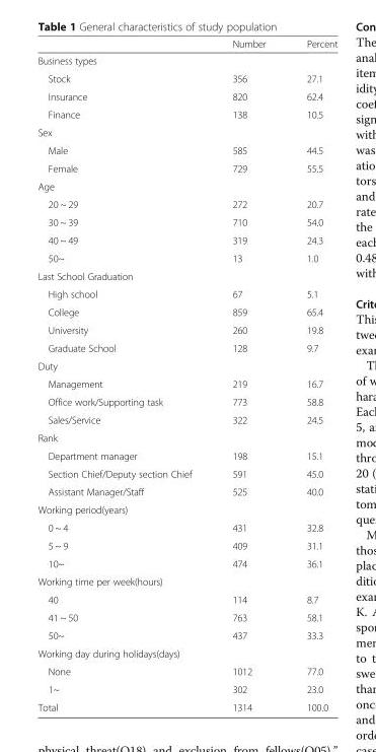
<table><thead><tr><td></td><td>Number</td><td>Percent</td></tr></thead><tbody><tr><td colspan="3">Business types</td></tr><tr><td>Stock</td><td>356</td><td>27.1</td></tr><tr><td>Insurance</td><td>820</td><td>62.4</td></tr><tr><td>Finance</td><td>138</td><td>10.5</td></tr><tr><td colspan="3">Sex</td></tr><tr><td>Male</td><td>585</td><td>44.5</td></tr><tr><td>Female</td><td>729</td><td>55.5</td></tr><tr><td colspan="3">Age</td></tr><tr><td>20 ~ 29</td><td>272</td><td>20.7</td></tr><tr><td>30 ~ 39</td><td>710</td><td>54.0</td></tr><tr><td>40 ~ 49</td><td>319</td><td>24.3</td></tr><tr><td>50~</td><td>13</td><td>1.0</td></tr><tr><td colspan="3">Last School Graduation</td></tr><tr><td>High school</td><td>67</td><td>5.1</td></tr><tr><td>College</td><td>859</td><td>65.4</td></tr><tr><td>University</td><td>260</td><td>19.8</td></tr><tr><td>Graduate School</td><td>128</td><td>9.7</td></tr><tr><td colspan="3">Duty</td></tr><tr><td>Management</td><td>219</td><td>16.7</td></tr><tr><td>Office work/Supporting task</td><td>773</td><td>58.8</td></tr><tr><td>Sales/Service</td><td>322</td><td>24.5</td></tr><tr><td colspan="3">Rank</td></tr><tr><td>Department manager</td><td>198</td><td>15.1</td></tr><tr><td>Section Chief/Deputy section Chief</td><td>591</td><td>45.0</td></tr><tr><td>Assistant Manager/Staff</td><td>525</td><td>40.0</td></tr><tr><td colspan="3">Working period(years)</td></tr><tr><td>0 ~ 4</td><td>431</td><td>32.8</td></tr><tr><td>5 ~ 9</td><td>409</td><td>31.1</td></tr><tr><td>10~</td><td>474</td><td>36.1</td></tr><tr><td colspan="3">Working time per week(hours)</td></tr><tr><td>40</td><td>114</td><td>8.7</td></tr><tr><td>41 ~ 50</td><td>763</td><td>58.1</td></tr><tr><td>50~</td><td>437</td><td>33.3</td></tr><tr><td colspan="3">Working day during holidays(days)</td></tr><tr><td>None</td><td>1012</td><td>77.0</td></tr><tr><td>1~</td><td>302</td><td>23.0</td></tr><tr><td>Total</td><td>1314</td><td>100.0</td></tr></tbody></table>